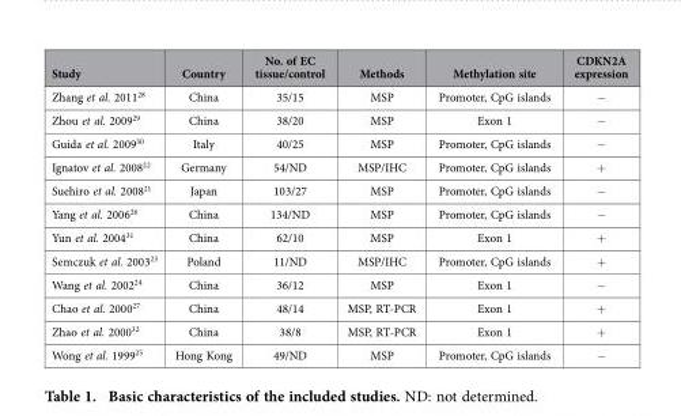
<table><thead><tr><td>Study</td><td>Country</td><td>No. of EC tissue/control</td><td>Methods</td><td>Methylation site</td><td>CDKN2A expression</td></tr></thead><tbody><tr><td>Zhang et al. 2011<sup>28</sup></td><td>China</td><td>35/15</td><td>MSP</td><td>Promoter, CpG islands</td><td>−</td></tr><tr><td>Zhou et al. 2009<sup>29</sup></td><td>China</td><td>38/20</td><td>MSP</td><td>Exon 1</td><td>−</td></tr><tr><td>Guida et al. 2009<sup>30</sup></td><td>Italy</td><td>40/25</td><td>MSP</td><td>Promoter, CpG islands</td><td>−</td></tr><tr><td>Ignatov et al. 2008<sup>22</sup></td><td>Germany</td><td>54/ND</td><td>MSP/IHC</td><td>Promoter, CpG islands</td><td>+</td></tr><tr><td>Suehiro et al. 2008<sup>21</sup></td><td>Japan</td><td>103/27</td><td>MSP</td><td>Promoter, CpG islands</td><td>−</td></tr><tr><td>Yang et al. 2006<sup>26</sup></td><td>China</td><td>134/ND</td><td>MSP</td><td>Promoter, CpG islands</td><td>−</td></tr><tr><td>Yun et al. 2004<sup>31</sup></td><td>China</td><td>62/10</td><td>MSP</td><td>Exon 1</td><td>+</td></tr><tr><td>Semczuk et al. 2003<sup>23</sup></td><td>Poland</td><td>11/ND</td><td>MSP/IHC</td><td>Promoter, CpG islands</td><td>+</td></tr><tr><td>Wang et al. 2002<sup>24</sup></td><td>China</td><td>36/12</td><td>MSP</td><td>Exon 1</td><td>−</td></tr><tr><td>Chao et al. 2000<sup>27</sup></td><td>China</td><td>48/14</td><td>MSP, RT-PCR</td><td>Exon 1</td><td>+</td></tr><tr><td>Zhao et al. 2000<sup>32</sup></td><td>China</td><td>38/8</td><td>MSP, RT-PCR</td><td>Exon 1</td><td>+</td></tr><tr><td>Wong et al. 1999<sup>25</sup></td><td>Hong Kong</td><td>49/ND</td><td>MSP</td><td>Promoter, CpG islands</td><td>−</td></tr></tbody></table>